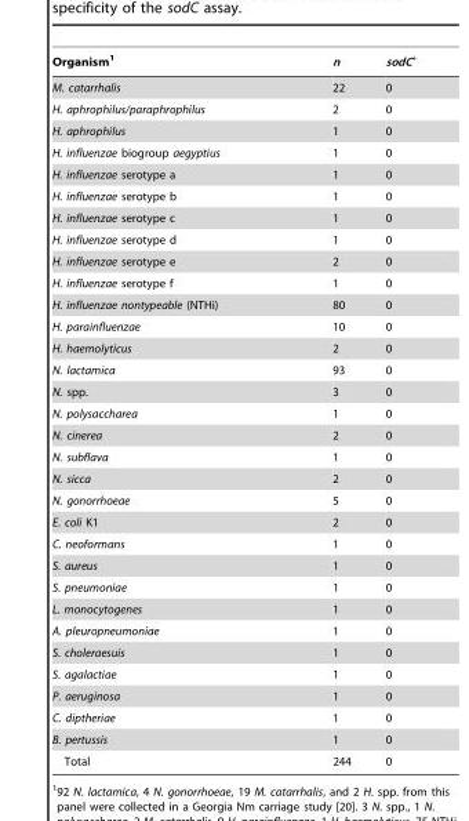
<table><thead><tr><td>Organism<sup>1</sup></td><td>n</td><td>sodC<sup>+</sup></td></tr></thead><tbody><tr><td>M. catarrhalis</td><td>22</td><td>0</td></tr><tr><td>H. aphrophilus/paraphrophilus</td><td>2</td><td>0</td></tr><tr><td>H. aphrophilus</td><td>1</td><td>0</td></tr><tr><td>H. influenzae biogroup aegyptius</td><td>1</td><td>0</td></tr><tr><td>H. influenzae serotype a</td><td>1</td><td>0</td></tr><tr><td>H. influenzae serotype b</td><td>1</td><td>0</td></tr><tr><td>H. influenzae serotype c</td><td>1</td><td>0</td></tr><tr><td>H. influenzae serotype d</td><td>1</td><td>0</td></tr><tr><td>H. influenzae serotype e</td><td>2</td><td>0</td></tr><tr><td>H. influenzae serotype f</td><td>1</td><td>0</td></tr><tr><td>H. influenzae nontypeable (NTHi)</td><td>80</td><td>0</td></tr><tr><td>H. parainfluenzae</td><td>10</td><td>0</td></tr><tr><td>H. haemolyticus</td><td>2</td><td>0</td></tr><tr><td>N. lactamica</td><td>93</td><td>0</td></tr><tr><td>N. spp.</td><td>3</td><td>0</td></tr><tr><td>N. polysaccharea</td><td>1</td><td>0</td></tr><tr><td>N. cinerea</td><td>2</td><td>0</td></tr><tr><td>N. subflava</td><td>1</td><td>0</td></tr><tr><td>N. sicca</td><td>2</td><td>0</td></tr><tr><td>N. gonorrhoeae</td><td>5</td><td>0</td></tr><tr><td>E. coli K1</td><td>2</td><td>0</td></tr><tr><td>C. neoformans</td><td>1</td><td>0</td></tr><tr><td>S. aureus</td><td>1</td><td>0</td></tr><tr><td>S. pneumoniae</td><td>1</td><td>0</td></tr><tr><td>L. monocytogenes</td><td>1</td><td>0</td></tr><tr><td>A. pleuropneumoniae</td><td>1</td><td>0</td></tr><tr><td>S. choleraesuis</td><td>1</td><td>0</td></tr><tr><td>S. agalactiae</td><td>1</td><td>0</td></tr><tr><td>P. aeruginosa</td><td>1</td><td>0</td></tr><tr><td>C. diptheriae</td><td>1</td><td>0</td></tr><tr><td>B. pertussis</td><td>1</td><td>0</td></tr><tr><td>Total</td><td>244</td><td>0</td></tr></tbody></table>